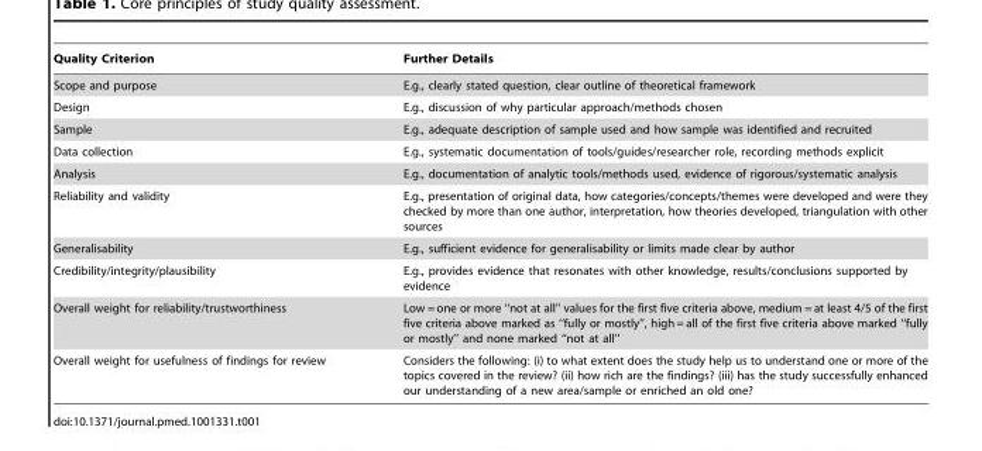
<table><thead><tr><td>Quality Criterion</td><td>Further Details</td></tr></thead><tbody><tr><td>Scope and purpose</td><td>E.g., clearly stated question, clear outline of theoretical framework</td></tr><tr><td>Design</td><td>E.g., discussion of why particular approach/methods chosen</td></tr><tr><td>Sample</td><td>E.g., adequate description of sample used and how sample was identified and recruited</td></tr><tr><td>Data collection</td><td>E.g., systematic documentation of tools/guides/researcher role, recording methods explicit</td></tr><tr><td>Analysis</td><td>E.g., documentation of analytic tools/methods used, evidence of rigorous/systematic analysis</td></tr><tr><td>Reliability and validity</td><td>E.g., presentation of original data, how categories/concepts/themes were developed and were they checked by more than one author, interpretation, how theories developed, triangulation with other sources</td></tr><tr><td>Generalisability</td><td>E.g., sufficient evidence for generalisability or limits made clear by author</td></tr><tr><td>Credibility/integrity/plausibility</td><td>E.g., provides evidence that resonates with other knowledge, results/conclusions supported by evidence</td></tr><tr><td>Overall weight for reliability/trustworthiness</td><td>Low = one or more ‘‘not at all’’ values for the first five criteria above, medium = at least 4/5 of the first five criteria above marked as ‘‘fully or mostly’’, high = all of the first five criteria above marked ‘‘fully or mostly’’ and none marked ‘‘not at all’’</td></tr><tr><td>Overall weight for usefulness of findings for review</td><td>Considers the following: (i) to what extent does the study help us to understand one or more of the topics covered in the review? (ii) how rich are the findings? (iii) has the study successfully enhanced our understanding of a new area/sample or enriched an old one?</td></tr></tbody></table>